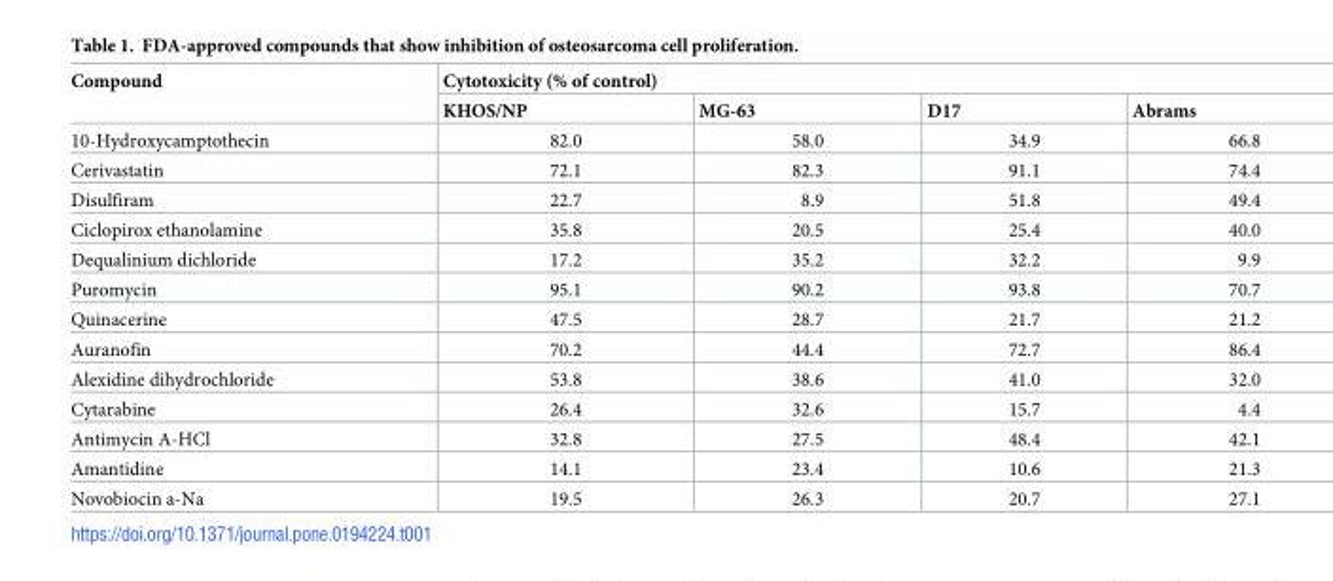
<table><thead><tr><td rowspan="2">Compound</td><td colspan="4">Cytotoxicity (% of control)</td></tr><tr><td>KHOS/NP</td><td>MG-63</td><td>D17</td><td>Abrams</td></tr></thead><tbody><tr><td>10-Hydroxycamptothecin</td><td>82.0</td><td>58.0</td><td>34.9</td><td>66.8</td></tr><tr><td>Cerivastatin</td><td>72.1</td><td>82.3</td><td>91.1</td><td>74.4</td></tr><tr><td>Disulfiram</td><td>22.7</td><td>8.9</td><td>51.8</td><td>49.4</td></tr><tr><td>Ciclopirox ethanolamine</td><td>35.8</td><td>20.5</td><td>25.4</td><td>40.0</td></tr><tr><td>Dequalinium dichloride</td><td>17.2</td><td>35.2</td><td>32.2</td><td>9.9</td></tr><tr><td>Puromycin</td><td>95.1</td><td>90.2</td><td>93.8</td><td>70.7</td></tr><tr><td>Quinacerine</td><td>47.5</td><td>28.7</td><td>21.7</td><td>21.2</td></tr><tr><td>Auranofin</td><td>70.2</td><td>44.4</td><td>72.7</td><td>86.4</td></tr><tr><td>Alexidine dihydrochloride</td><td>53.8</td><td>38.6</td><td>41.0</td><td>32.0</td></tr><tr><td>Cytarabine</td><td>26.4</td><td>32.6</td><td>15.7</td><td>4.4</td></tr><tr><td>Antimycin A-HCl</td><td>32.8</td><td>27.5</td><td>48.4</td><td>42.1</td></tr><tr><td>Amantidine</td><td>14.1</td><td>23.4</td><td>10.6</td><td>21.3</td></tr><tr><td>Novobiocin a-Na</td><td>19.5</td><td>26.3</td><td>20.7</td><td>27.1</td></tr></tbody></table>